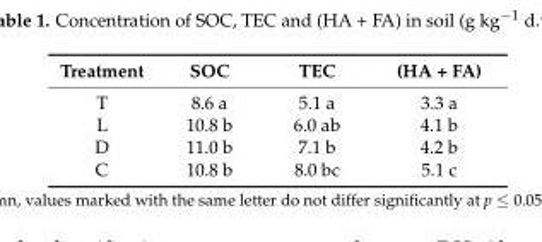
<table><thead><tr><td>Treatment</td><td>SOC</td><td>TEC</td><td>(HA + FA)</td></tr></thead><tbody><tr><td>T</td><td>8.6 a</td><td>5.1 a</td><td>3.3 a</td></tr><tr><td>L</td><td>10.8 b</td><td>6.0 ab</td><td>4.1 b</td></tr><tr><td>D</td><td>11.0 b</td><td>7.1 b</td><td>4.2 b</td></tr><tr><td>C</td><td>10.8 b</td><td>8.0 bc</td><td>5.1 c</td></tr></tbody></table>